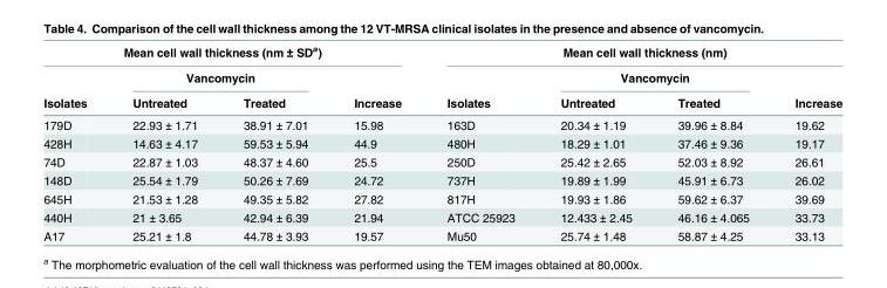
<table><thead><tr><td rowspan="2" colspan="4">Mean cell wall thickness (nm ± SD<sup>a</sup>) Vancomycin</td><td rowspan="2" colspan="4">Mean cell wall thickness (nm) Vancomycin</td></tr><tr></tr><tr><td>Isolates</td><td>Untreated</td><td>Treated</td><td>Increase</td><td>Isolates</td><td>Untreated</td><td>Treated</td><td>Increase</td></tr></thead><tbody><tr><td>179D</td><td>22.93 ± 1.71</td><td>38.91 ± 7.01</td><td>15.98</td><td>163D</td><td>20.34 ± 1.19</td><td>39.96 ± 8.84</td><td>19.62</td></tr><tr><td>428H</td><td>14.63 ± 4.17</td><td>59.53 ± 5.94</td><td>44.9</td><td>480H</td><td>18.29 ± 1.01</td><td>37.46 ± 9.36</td><td>19.17</td></tr><tr><td>74D</td><td>22.87 ± 1.03</td><td>48.37 ± 4.60</td><td>25.5</td><td>250D</td><td>25.42 ± 2.65</td><td>52.03 ± 8.92</td><td>26.61</td></tr><tr><td>148D</td><td>25.54 ± 1.79</td><td>50.26 ± 7.69</td><td>24.72</td><td>737H</td><td>19.89 ± 1.99</td><td>45.91 ± 6.73</td><td>26.02</td></tr><tr><td>645H</td><td>21.53 ± 1.28</td><td>49.35 ± 5.82</td><td>27.82</td><td>817H</td><td>19.93 ± 1.86</td><td>59.62 ± 6.37</td><td>39.69</td></tr><tr><td>440H</td><td>21 ± 3.65</td><td>42.94 ± 6.39</td><td>21.94</td><td>ATCC 25923</td><td>12.433 ± 2.45</td><td>46.16 ± 4.065</td><td>33.73</td></tr><tr><td>A17</td><td>25.21 ± 1.8</td><td>44.78 ± 3.93</td><td>19.57</td><td>Mu50</td><td>25.74 ± 1.48</td><td>58.87 ± 4.25</td><td>33.13</td></tr></tbody></table>